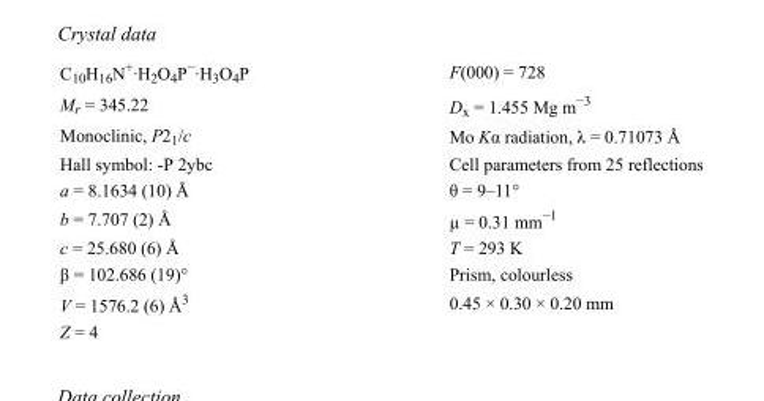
<table><tbody><tr><td>C<sub>10</sub>H<sub>16</sub>N<sup>+</sup>·H<sub>2</sub>O<sub>4</sub>P<sup>−</sup>·H<sub>3</sub>O<sub>4</sub>P</td><td>F(000) = 728</td></tr><tr><td>M<sub>r</sub> = 345.22</td><td>D<sub>x</sub> = 1.455 Mg m<sup>−3</sup></td></tr><tr><td>Monoclinic, P2<sub>1</sub>/c</td><td>Mo Kα radiation, λ = 0.71073 Å</td></tr><tr><td>Hall symbol: -P 2ybc</td><td>Cell parameters from 25 reflections</td></tr><tr><td>a = 8.1634 (10) Å</td><td>θ = 9–11°</td></tr><tr><td>b = 7.707 (2) Å</td><td>µ = 0.31 mm<sup>−1</sup></td></tr><tr><td>c = 25.680 (6) Å</td><td>T = 293 K</td></tr><tr><td>β = 102.686 (19)°</td><td>Prism, colourless</td></tr><tr><td>V = 1576.2 (6) Å<sup>3</sup></td><td>0.45 × 0.30 × 0.20 mm</td></tr><tr><td>Z = 4</td><td></td></tr></tbody></table>